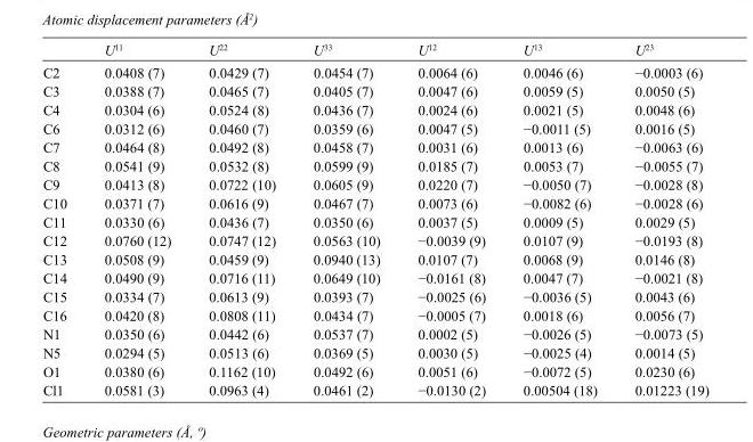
<table><thead><tr><td></td><td>U<sup>11</sup></td><td>U<sup>22</sup></td><td>U<sup>33</sup></td><td>U<sup>12</sup></td><td>U<sup>13</sup></td><td>U<sup>23</sup></td></tr></thead><tbody><tr><td>C2</td><td>0.0408 (7)</td><td>0.0429 (7)</td><td>0.0454 (7)</td><td>0.0064 (6)</td><td>0.0046 (6)</td><td>−0.0003 (6)</td></tr><tr><td>C3</td><td>0.0388 (7)</td><td>0.0465 (7)</td><td>0.0405 (7)</td><td>0.0047 (6)</td><td>0.0059 (5)</td><td>0.0050 (5)</td></tr><tr><td>C4</td><td>0.0304 (6)</td><td>0.0524 (8)</td><td>0.0436 (7)</td><td>0.0024 (6)</td><td>0.0021 (5)</td><td>0.0048 (6)</td></tr><tr><td>C6</td><td>0.0312 (6)</td><td>0.0460 (7)</td><td>0.0359 (6)</td><td>0.0047 (5)</td><td>−0.0011 (5)</td><td>0.0016 (5)</td></tr><tr><td>C7</td><td>0.0464 (8)</td><td>0.0492 (8)</td><td>0.0458 (7)</td><td>0.0031 (6)</td><td>0.0013 (6)</td><td>−0.0063 (6)</td></tr><tr><td>C8</td><td>0.0541 (9)</td><td>0.0532 (8)</td><td>0.0599 (9)</td><td>0.0185 (7)</td><td>0.0053 (7)</td><td>−0.0055 (7)</td></tr><tr><td>C9</td><td>0.0413 (8)</td><td>0.0722 (10)</td><td>0.0605 (9)</td><td>0.0220 (7)</td><td>−0.0050 (7)</td><td>−0.0028 (8)</td></tr><tr><td>C10</td><td>0.0371 (7)</td><td>0.0616 (9)</td><td>0.0467 (7)</td><td>0.0073 (6)</td><td>−0.0082 (6)</td><td>−0.0028 (6)</td></tr><tr><td>C11</td><td>0.0330 (6)</td><td>0.0436 (7)</td><td>0.0350 (6)</td><td>0.0037 (5)</td><td>0.0009 (5)</td><td>0.0029 (5)</td></tr><tr><td>C12</td><td>0.0760 (12)</td><td>0.0747 (12)</td><td>0.0563 (10)</td><td>−0.0039 (9)</td><td>0.0107 (9)</td><td>−0.0193 (8)</td></tr><tr><td>C13</td><td>0.0508 (9)</td><td>0.0459 (9)</td><td>0.0940 (13)</td><td>0.0107 (7)</td><td>0.0068 (9)</td><td>0.0146 (8)</td></tr><tr><td>C14</td><td>0.0490 (9)</td><td>0.0716 (11)</td><td>0.0649 (10)</td><td>−0.0161 (8)</td><td>0.0047 (7)</td><td>−0.0021 (8)</td></tr><tr><td>C15</td><td>0.0334 (7)</td><td>0.0613 (9)</td><td>0.0393 (7)</td><td>−0.0025 (6)</td><td>−0.0036 (5)</td><td>0.0043 (6)</td></tr><tr><td>C16</td><td>0.0420 (8)</td><td>0.0808 (11)</td><td>0.0434 (7)</td><td>−0.0005 (7)</td><td>0.0018 (6)</td><td>0.0056 (7)</td></tr><tr><td>N1</td><td>0.0350 (6)</td><td>0.0442 (6)</td><td>0.0537 (7)</td><td>0.0002 (5)</td><td>−0.0026 (5)</td><td>−0.0073 (5)</td></tr><tr><td>N5</td><td>0.0294 (5)</td><td>0.0513 (6)</td><td>0.0369 (5)</td><td>0.0030 (5)</td><td>−0.0025 (4)</td><td>0.0014 (5)</td></tr><tr><td>O1</td><td>0.0380 (6)</td><td>0.1162 (10)</td><td>0.0492 (6)</td><td>0.0051 (6)</td><td>−0.0072 (5)</td><td>0.0230 (6)</td></tr><tr><td>Cl1</td><td>0.0581 (3)</td><td>0.0963 (4)</td><td>0.0461 (2)</td><td>−0.0130 (2)</td><td>0.00504 (18)</td><td>0.01223 (19)</td></tr></tbody></table>